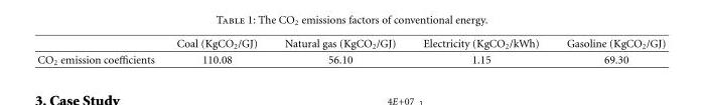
<table><thead><tr><td></td><td>Coal (KgCO<sub>2</sub>/GJ)</td><td>Natural gas (KgCO<sub>2</sub>/GJ)</td><td>Electricity (KgCO<sub>2</sub>/kWh)</td><td>Gasoline (KgCO<sub>2</sub>/GJ)</td></tr></thead><tbody><tr><td>CO<sub>2</sub> emission coefficients</td><td>110.08</td><td>56.10</td><td>1.15</td><td>69.30</td></tr></tbody></table>